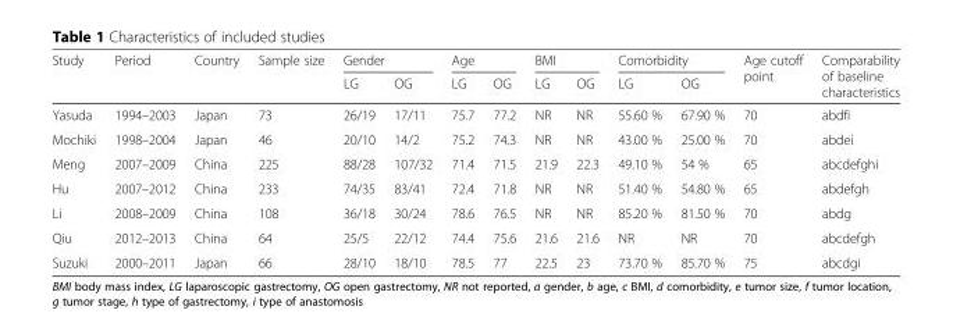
<table><thead><tr><td rowspan="2">Study</td><td rowspan="2">Period</td><td rowspan="2">Country</td><td rowspan="2">Sample size</td><td colspan="2">Gender</td><td colspan="2">Age</td><td colspan="2">BMI</td><td colspan="2">Comorbidity</td><td rowspan="2">Age cutoff point</td><td rowspan="2">Comparability of baseline characteristics</td></tr><tr><td>LG</td><td>OG</td><td>LG</td><td>OG</td><td>LG</td><td>OG</td><td>LG</td><td>OG</td></tr></thead><tbody><tr><td>Yasuda</td><td>1994–2003</td><td>Japan</td><td>73</td><td>26/19</td><td>17/11</td><td>75.7</td><td>77.2</td><td>NR</td><td>NR</td><td>55.60 %</td><td>67.90 %</td><td>70</td><td>abdfi</td></tr><tr><td>Mochiki</td><td>1998–2004</td><td>Japan</td><td>46</td><td>20/10</td><td>14/2</td><td>75.2</td><td>74.3</td><td>NR</td><td>NR</td><td>43.00 %</td><td>25.00 %</td><td>70</td><td>abdei</td></tr><tr><td>Meng</td><td>2007–2009</td><td>China</td><td>225</td><td>88/28</td><td>107/32</td><td>71.4</td><td>71.5</td><td>21.9</td><td>22.3</td><td>49.10 %</td><td>54 %</td><td>65</td><td>abcdefghi</td></tr><tr><td>Hu</td><td>2007–2012</td><td>China</td><td>233</td><td>74/35</td><td>83/41</td><td>72.4</td><td>71.8</td><td>NR</td><td>NR</td><td>51.40 %</td><td>54.80 %</td><td>65</td><td>abdefgh</td></tr><tr><td>Li</td><td>2008–2009</td><td>China</td><td>108</td><td>36/18</td><td>30/24</td><td>78.6</td><td>76.5</td><td>NR</td><td>NR</td><td>85.20 %</td><td>81.50 %</td><td>70</td><td>abdg</td></tr><tr><td>Qiu</td><td>2012–2013</td><td>China</td><td>64</td><td>25/5</td><td>22/12</td><td>74.4</td><td>75.6</td><td>21.6</td><td>21.6</td><td>NR</td><td>NR</td><td>70</td><td>abcdefgh</td></tr><tr><td>Suzuki</td><td>2000–2011</td><td>Japan</td><td>66</td><td>28/10</td><td>18/10</td><td>78.5</td><td>77</td><td>22.5</td><td>23</td><td>73.70 %</td><td>85.70 %</td><td>75</td><td>abcdgi</td></tr></tbody></table>